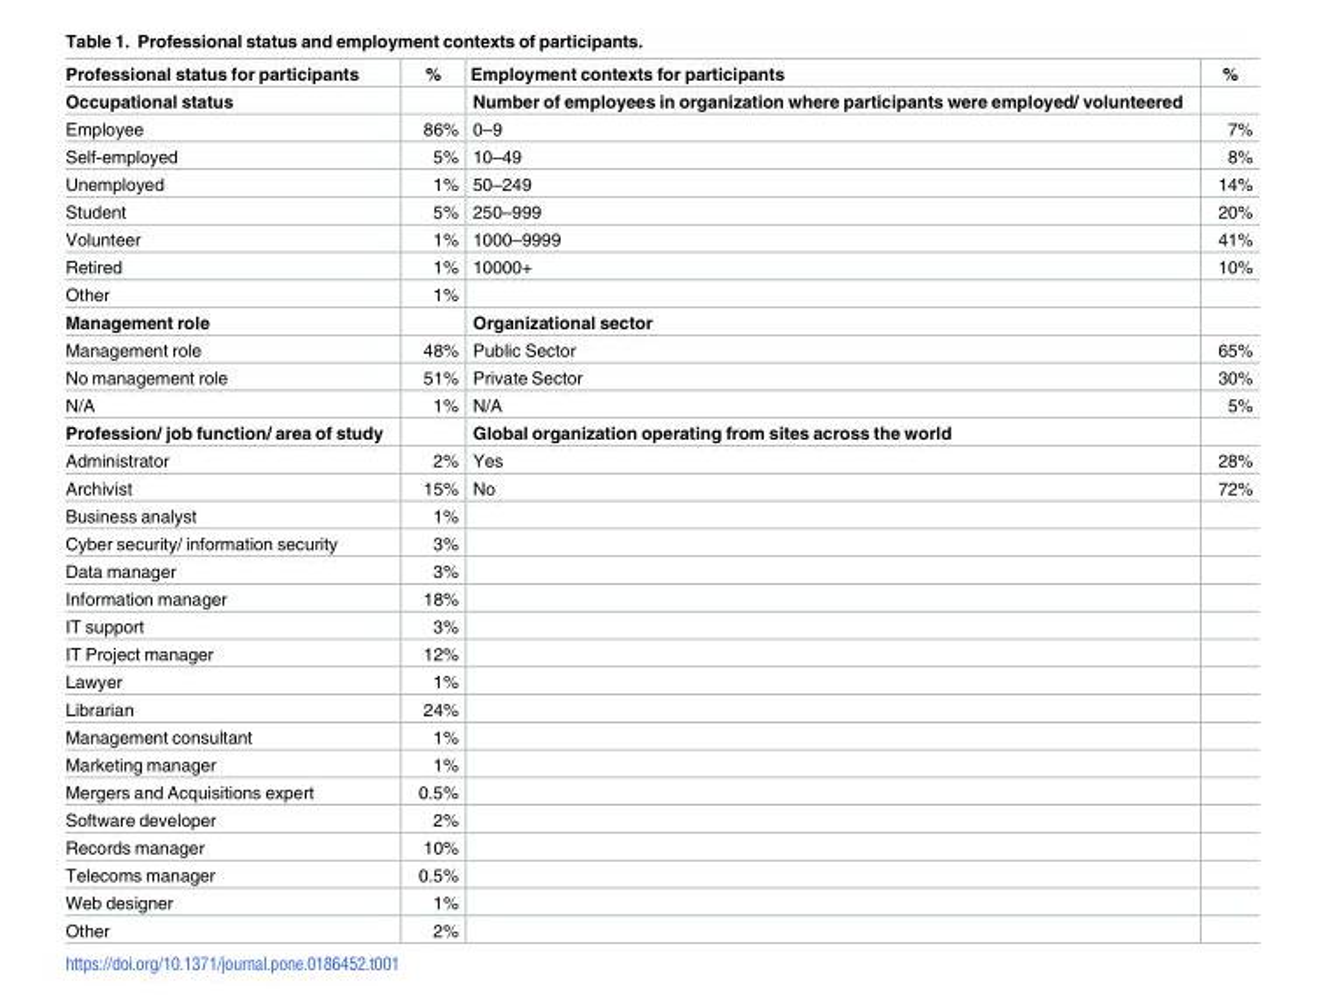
<table><thead><tr><td>Professional status for participants</td><td>%</td><td>Employment contexts for participants</td><td>%</td></tr></thead><tbody><tr><td>Occupational status</td><td></td><td>Number of employees in organization where participants were employed/ volunteered</td><td></td></tr><tr><td>Employee</td><td>86%</td><td>0–9</td><td>7%</td></tr><tr><td>Self-employed</td><td>5%</td><td>10–49</td><td>8%</td></tr><tr><td>Unemployed</td><td>1%</td><td>50–249</td><td>14%</td></tr><tr><td>Student</td><td>5%</td><td>250–999</td><td>20%</td></tr><tr><td>Volunteer</td><td>1%</td><td>1000–9999</td><td>41%</td></tr><tr><td>Retired</td><td>1%</td><td>10000+</td><td>10%</td></tr><tr><td>Other</td><td>1%</td><td></td><td></td></tr><tr><td>Management role</td><td></td><td>Organizational sector</td><td></td></tr><tr><td>Management role</td><td>48%</td><td>Public Sector</td><td>65%</td></tr><tr><td>No management role</td><td>51%</td><td>Private Sector</td><td>30%</td></tr><tr><td>N/A</td><td>1%</td><td>N/A</td><td>5%</td></tr><tr><td>Profession/ job function/ area of study</td><td></td><td>Global organization operating from sites across the world</td><td></td></tr><tr><td>Administrator</td><td>2%</td><td>Yes</td><td>28%</td></tr><tr><td>Archivist</td><td>15%</td><td>No</td><td>72%</td></tr><tr><td>Business analyst</td><td>1%</td><td></td><td></td></tr><tr><td>Cyber security/ information security</td><td>3%</td><td></td><td></td></tr><tr><td>Data manager</td><td>3%</td><td></td><td></td></tr><tr><td>Information manager</td><td>18%</td><td></td><td></td></tr><tr><td>IT support</td><td>3%</td><td></td><td></td></tr><tr><td>IT Project manager</td><td>12%</td><td></td><td></td></tr><tr><td>Lawyer</td><td>1%</td><td></td><td></td></tr><tr><td>Librarian</td><td>24%</td><td></td><td></td></tr><tr><td>Management consultant</td><td>1%</td><td></td><td></td></tr><tr><td>Marketing manager</td><td>1%</td><td></td><td></td></tr><tr><td>Mergers and Acquisitions expert</td><td>0.5%</td><td></td><td></td></tr><tr><td>Software developer</td><td>2%</td><td></td><td></td></tr><tr><td>Records manager</td><td>10%</td><td></td><td></td></tr><tr><td>Telecoms manager</td><td>0.5%</td><td></td><td></td></tr><tr><td>Web designer</td><td>1%</td><td></td><td></td></tr><tr><td>Other</td><td>2%</td><td></td><td></td></tr></tbody></table>